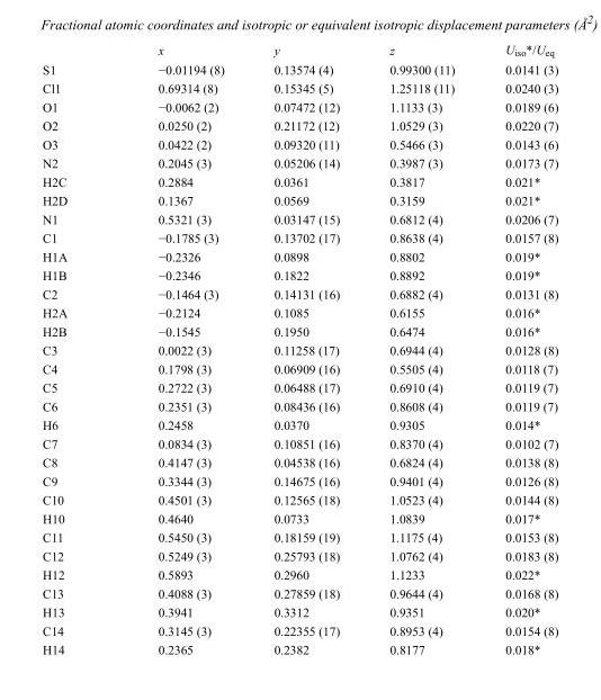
<table><thead><tr><td></td><td>x</td><td>y</td><td>z</td><td>U<sub>iso</sub>*/U<sub>eq</sub></td></tr></thead><tbody><tr><td>S1</td><td>−0.01194 (8)</td><td>0.13574 (4)</td><td>0.99300 (11)</td><td>0.0141 (3)</td></tr><tr><td>Cl1</td><td>0.69314 (8)</td><td>0.15345 (5)</td><td>1.25118 (11)</td><td>0.0240 (3)</td></tr><tr><td>O1</td><td>−0.0062 (2)</td><td>0.07472 (12)</td><td>1.1133 (3)</td><td>0.0189 (6)</td></tr><tr><td>O2</td><td>0.0250 (2)</td><td>0.21172 (12)</td><td>1.0529 (3)</td><td>0.0220 (7)</td></tr><tr><td>O3</td><td>0.0422 (2)</td><td>0.09320 (11)</td><td>0.5466 (3)</td><td>0.0143 (6)</td></tr><tr><td>N2</td><td>0.2045 (3)</td><td>0.05206 (14)</td><td>0.3987 (3)</td><td>0.0173 (7)</td></tr><tr><td>H2C</td><td>0.2884</td><td>0.0361</td><td>0.3817</td><td>0.021*</td></tr><tr><td>H2D</td><td>0.1367</td><td>0.0569</td><td>0.3159</td><td>0.021*</td></tr><tr><td>N1</td><td>0.5321 (3)</td><td>0.03147 (15)</td><td>0.6812 (4)</td><td>0.0206 (7)</td></tr><tr><td>C1</td><td>−0.1785 (3)</td><td>0.13702 (17)</td><td>0.8638 (4)</td><td>0.0157 (8)</td></tr><tr><td>H1A</td><td>−0.2326</td><td>0.0898</td><td>0.8802</td><td>0.019*</td></tr><tr><td>H1B</td><td>−0.2346</td><td>0.1822</td><td>0.8892</td><td>0.019*</td></tr><tr><td>C2</td><td>−0.1464 (3)</td><td>0.14131 (16)</td><td>0.6882 (4)</td><td>0.0131 (8)</td></tr><tr><td>H2A</td><td>−0.2124</td><td>0.1085</td><td>0.6155</td><td>0.016*</td></tr><tr><td>H2B</td><td>−0.1545</td><td>0.1950</td><td>0.6474</td><td>0.016*</td></tr><tr><td>C3</td><td>0.0022 (3)</td><td>0.11258 (17)</td><td>0.6944 (4)</td><td>0.0128 (8)</td></tr><tr><td>C4</td><td>0.1798 (3)</td><td>0.06909 (16)</td><td>0.5505 (4)</td><td>0.0118 (7)</td></tr><tr><td>C5</td><td>0.2722 (3)</td><td>0.06488 (17)</td><td>0.6910 (4)</td><td>0.0119 (7)</td></tr><tr><td>C6</td><td>0.2351 (3)</td><td>0.08436 (16)</td><td>0.8608 (4)</td><td>0.0119 (7)</td></tr><tr><td>H6</td><td>0.2458</td><td>0.0370</td><td>0.9305</td><td>0.014*</td></tr><tr><td>C7</td><td>0.0834 (3)</td><td>0.10851 (16)</td><td>0.8370 (4)</td><td>0.0102 (7)</td></tr><tr><td>C8</td><td>0.4147 (3)</td><td>0.04538 (16)</td><td>0.6824 (4)</td><td>0.0138 (8)</td></tr><tr><td>C9</td><td>0.3344 (3)</td><td>0.14675 (16)</td><td>0.9401 (4)</td><td>0.0126 (8)</td></tr><tr><td>C10</td><td>0.4501 (3)</td><td>0.12565 (18)</td><td>1.0523 (4)</td><td>0.0144 (8)</td></tr><tr><td>H10</td><td>0.4640</td><td>0.0733</td><td>1.0839</td><td>0.017*</td></tr><tr><td>C11</td><td>0.5450 (3)</td><td>0.18159 (19)</td><td>1.1175 (4)</td><td>0.0153 (8)</td></tr><tr><td>C12</td><td>0.5249 (3)</td><td>0.25793 (18)</td><td>1.0762 (4)</td><td>0.0183 (8)</td></tr><tr><td>H12</td><td>0.5893</td><td>0.2960</td><td>1.1233</td><td>0.022*</td></tr><tr><td>C13</td><td>0.4088 (3)</td><td>0.27859 (18)</td><td>0.9644 (4)</td><td>0.0168 (8)</td></tr><tr><td>H13</td><td>0.3941</td><td>0.3312</td><td>0.9351</td><td>0.020*</td></tr><tr><td>C14</td><td>0.3145 (3)</td><td>0.22355 (17)</td><td>0.8953 (4)</td><td>0.0154 (8)</td></tr><tr><td>H14</td><td>0.2365</td><td>0.2382</td><td>0.8177</td><td>0.018*</td></tr></tbody></table>